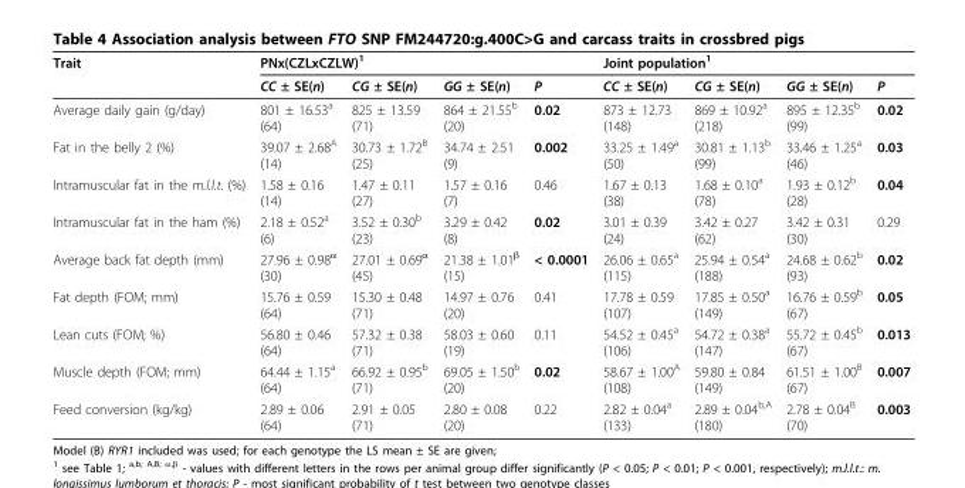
<table><thead><tr><td rowspan="2">Trait</td><td colspan="4">PNx(CZLxCZLW)<sup>1</sup></td><td colspan="4">Joint population<sup>1</sup></td></tr><tr><td>CC ± SE(n)</td><td>CG ± SE(n)</td><td>GG ± SE(n)</td><td>P</td><td>CC ± SE(n)</td><td>CG ± SE(n)</td><td>GG ± SE(n)</td><td>P</td></tr></thead><tbody><tr><td>Average daily gain (g/day)</td><td>801 ± 16.53<sup>a</sup> (64)</td><td>825 ± 13.59 (71)</td><td>864 ± 21.55<sup>b</sup> (20)</td><td>0.02</td><td>873 ± 12.73 (148)</td><td>869 ± 10.92<sup>a</sup> (218)</td><td>895 ± 12.35<sup>b</sup> (99)</td><td>0.02</td></tr><tr><td>Fat in the belly 2 (%)</td><td>39.07 ± 2.68<sup>A</sup> (14)</td><td>30.73 ± 1.72<sup>B</sup> (25)</td><td>34.74 ± 2.51 (9)</td><td>0.002</td><td>33.25 ± 1.49<sup>a</sup> (50)</td><td>30.81 ± 1.13<sup>b</sup> (99)</td><td>33.46 ± 1.25<sup>a</sup> (46)</td><td>0.03</td></tr><tr><td>Intramuscular fat in the m.l.l.t. (%)</td><td>1.58 ± 0.16 (14)</td><td>1.47 ± 0.11 (27)</td><td>1.57 ± 0.16 (7)</td><td>0.46</td><td>1.67 ± 0.13 (38)</td><td>1.68 ± 0.10<sup>a</sup> (78)</td><td>1.93 ± 0.12<sup>b</sup> (28)</td><td>0.04</td></tr><tr><td>Intramuscular fat in the ham (%)</td><td>2.18 ± 0.52<sup>a</sup> (6)</td><td>3.52 ± 0.30<sup>b</sup> (23)</td><td>3.29 ± 0.42 (8)</td><td>0.02</td><td>3.01 ± 0.39 (24)</td><td>3.42 ± 0.27 (62)</td><td>3.42 ± 0.31 (30)</td><td>0.29</td></tr><tr><td>Average back fat depth (mm)</td><td>27.96 ± 0.98<sup>α</sup> (30)</td><td>27.01 ± 0.69<sup>α</sup> (45)</td><td>21.38 ± 1.01<sup>β</sup> (15)</td><td>&lt; 0.0001</td><td>26.06 ± 0.65<sup>a</sup> (115)</td><td>25.94 ± 0.54<sup>a</sup> (188)</td><td>24.68 ± 0.62<sup>b</sup> (93)</td><td>0.02</td></tr><tr><td>Fat depth (FOM; mm)</td><td>15.76 ± 0.59 (64)</td><td>15.30 ± 0.48 (71)</td><td>14.97 ± 0.76 (20)</td><td>0.41</td><td>17.78 ± 0.59 (107)</td><td>17.85 ± 0.50<sup>a</sup> (149)</td><td>16.76 ± 0.59<sup>b</sup> (67)</td><td>0.05</td></tr><tr><td>Lean cuts (FOM; %)</td><td>56.80 ± 0.46 (64)</td><td>57.32 ± 0.38 (71)</td><td>58.03 ± 0.60 (19)</td><td>0.11</td><td>54.52 ± 0.45<sup>a</sup> (106)</td><td>54.72 ± 0.38<sup>a</sup> (147)</td><td>55.72 ± 0.45<sup>b</sup> (67)</td><td>0.013</td></tr><tr><td>Muscle depth (FOM; mm)</td><td>64.44 ± 1.15<sup>a</sup> (64)</td><td>66.92 ± 0.95<sup>b</sup> (71)</td><td>69.05 ± 1.50<sup>b</sup> (20)</td><td>0.02</td><td>58.67 ± 1.00<sup>A</sup> (108)</td><td>59.80 ± 0.84 (149)</td><td>61.51 ± 1.00<sup>B</sup> (67)</td><td>0.007</td></tr><tr><td>Feed conversion (kg/kg)</td><td>2.89 ± 0.06 (64)</td><td>2.91 ± 0.05 (71)</td><td>2.80 ± 0.08 (20)</td><td>0.22</td><td>2.82 ± 0.04<sup>a</sup> (133)</td><td>2.89 ± 0.04<sup>b,A</sup> (180)</td><td>2.78 ± 0.04<sup>B</sup> (70)</td><td>0.003</td></tr></tbody></table>